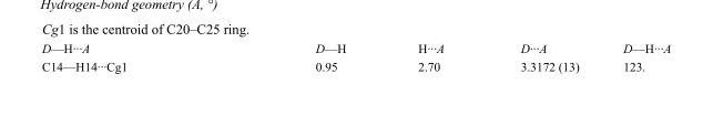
<table><tbody><tr><td>D—H···A</td><td>D—H</td><td>H···A</td><td>D···A</td><td>D—H···A</td></tr><tr><td>C14—H14···Cg1</td><td>0.95</td><td>2.70</td><td>3.3172 (13)</td><td>123.</td></tr></tbody></table>